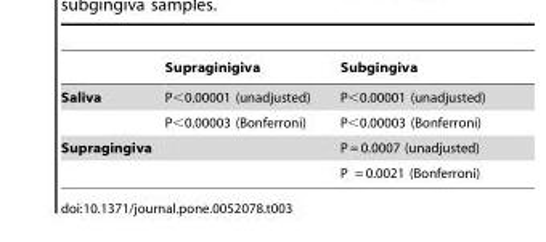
<table><thead><tr><td></td><td>Supraginigiva</td><td>Subgingiva</td></tr></thead><tbody><tr><td rowspan="2">Saliva</td><td>P&lt;0.00001 (unadjusted)</td><td>P&lt;0.00001 (unadjusted)</td></tr><tr><td>P&lt;0.00003 (Bonferroni)</td><td>P&lt;0.00003 (Bonferroni)</td></tr><tr><td rowspan="2">Supragingiva</td><td></td><td>P = 0.0007 (unadjusted)</td></tr><tr><td></td><td>P = 0.0021 (Bonferroni)</td></tr></tbody></table>